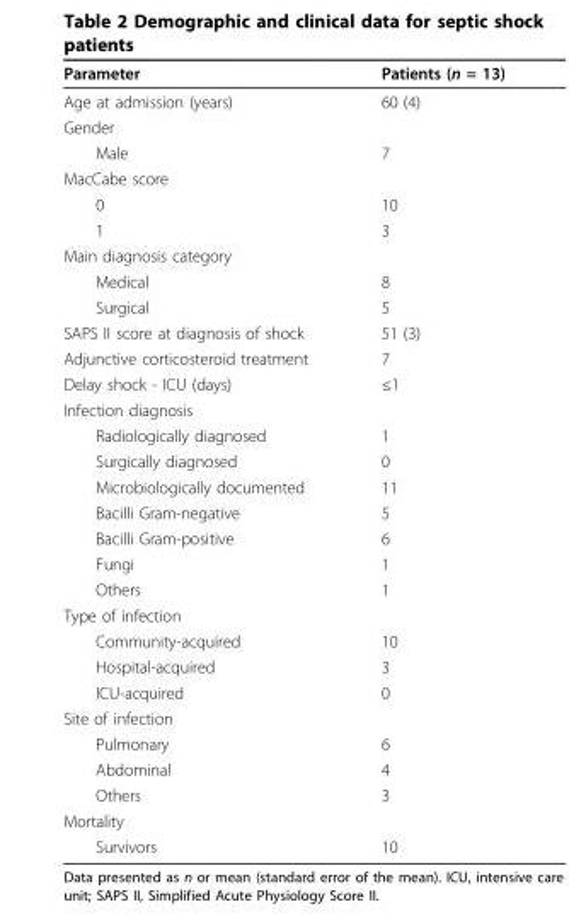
<table><thead><tr><td>Parameter</td><td>Patients (n = 13)</td></tr></thead><tbody><tr><td>Age at admission (years)</td><td>60 (4)</td></tr><tr><td colspan="2">Gender</td></tr><tr><td>Male</td><td>7</td></tr><tr><td colspan="2">MacCabe score</td></tr><tr><td>0</td><td>10</td></tr><tr><td>1</td><td>3</td></tr><tr><td colspan="2">Main diagnosis category</td></tr><tr><td>Medical</td><td>8</td></tr><tr><td>Surgical</td><td>5</td></tr><tr><td>SAPS II score at diagnosis of shock</td><td>51 (3)</td></tr><tr><td>Adjunctive corticosteroid treatment</td><td>7</td></tr><tr><td>Delay shock - ICU (days)</td><td>≤1</td></tr><tr><td colspan="2">Infection diagnosis</td></tr><tr><td>Radiologically diagnosed</td><td>1</td></tr><tr><td>Surgically diagnosed</td><td>0</td></tr><tr><td>Microbiologically documented</td><td>11</td></tr><tr><td>Bacilli Gram-negative</td><td>5</td></tr><tr><td>Bacilli Gram-positive</td><td>6</td></tr><tr><td>Fungi</td><td>1</td></tr><tr><td>Others</td><td>1</td></tr><tr><td colspan="2">Type of infection</td></tr><tr><td>Community-acquired</td><td>10</td></tr><tr><td>Hospital-acquired</td><td>3</td></tr><tr><td>ICU-acquired</td><td>0</td></tr><tr><td colspan="2">Site of infection</td></tr><tr><td>Pulmonary</td><td>6</td></tr><tr><td>Abdominal</td><td>4</td></tr><tr><td>Others</td><td>3</td></tr><tr><td colspan="2">Mortality</td></tr><tr><td>Survivors</td><td>10</td></tr></tbody></table>